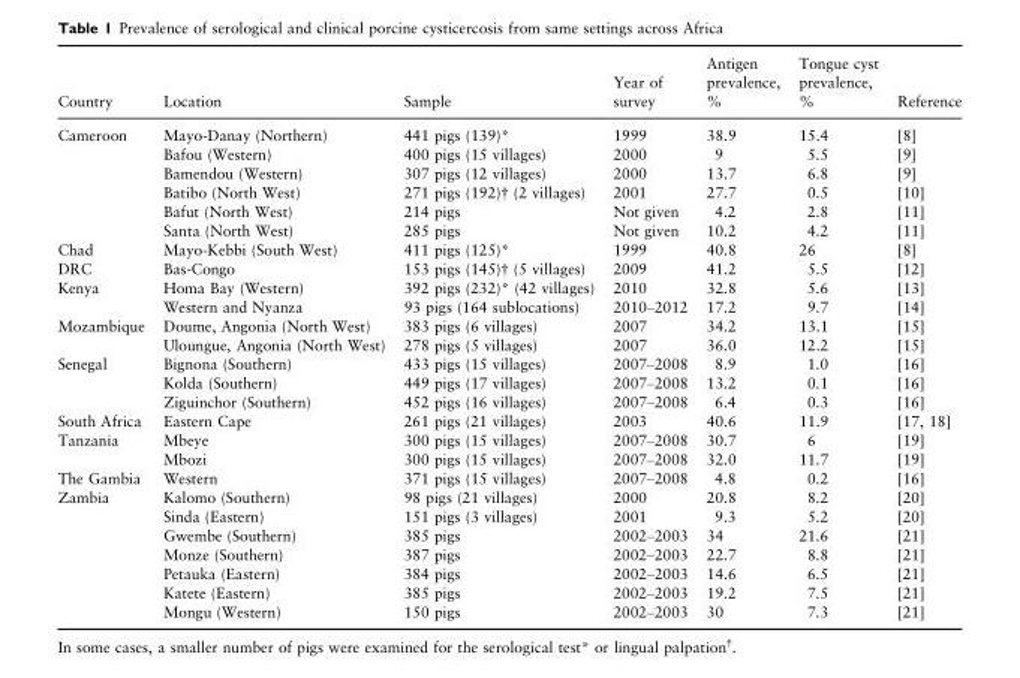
<table><thead><tr><td>Country</td><td>Location</td><td>Sample</td><td>Year of survey</td><td>Antigen prevalence, %</td><td>Tongue cyst prevalence, %</td><td>Reference</td></tr></thead><tbody><tr><td rowspan="6">Cameroon</td><td>Mayo-Danay (Northern)</td><td>441 pigs (139)*</td><td>1999</td><td>38.9</td><td>15.4</td><td>[8]</td></tr><tr><td>Bafou (Western)</td><td>400 pigs (15 villages)</td><td>2000</td><td>9</td><td>5.5</td><td>[9]</td></tr><tr><td>Bamendou (Western)</td><td>307 pigs (12 villages)</td><td>2000</td><td>13.7</td><td>6.8</td><td>[9]</td></tr><tr><td>Batibo (North West)</td><td>271 pigs (192)† (2 villages)</td><td>2001</td><td>27.7</td><td>0.5</td><td>[10]</td></tr><tr><td>Bafut (North West)</td><td>214 pigs</td><td>Not given</td><td>4.2</td><td>2.8</td><td>[11]</td></tr><tr><td>Santa (North West)</td><td>285 pigs</td><td>Not given</td><td>10.2</td><td>4.2</td><td>[11]</td></tr><tr><td>Chad</td><td>Mayo-Kebbi (South West)</td><td>411 pigs (125)*</td><td>1999</td><td>40.8</td><td>26</td><td>[8]</td></tr><tr><td>DRC</td><td>Bas-Congo</td><td>153 pigs (145)† (5 villages)</td><td>2009</td><td>41.2</td><td>5.5</td><td>[12]</td></tr><tr><td rowspan="2">Kenya</td><td>Homa Bay (Western)</td><td>392 pigs (232)* (42 villages)</td><td>2010</td><td>32.8</td><td>5.6</td><td>[13]</td></tr><tr><td>Western and Nyanza</td><td>93 pigs (164 sublocations)</td><td>2010–2012</td><td>17.2</td><td>9.7</td><td>[14]</td></tr><tr><td rowspan="2">Mozambique</td><td>Doume, Angonia (North West)</td><td>383 pigs (6 villages)</td><td>2007</td><td>34.2</td><td>13.1</td><td>[15]</td></tr><tr><td>Uloungue, Angonia (North West)</td><td>278 pigs (5 villages)</td><td>2007</td><td>36.0</td><td>12.2</td><td>[15]</td></tr><tr><td rowspan="3">Senegal</td><td>Bignona (Southern)</td><td>433 pigs (15 villages)</td><td>2007–2008</td><td>8.9</td><td>1.0</td><td>[16]</td></tr><tr><td>Kolda (Southern)</td><td>449 pigs (17 villages)</td><td>2007–2008</td><td>13.2</td><td>0.1</td><td>[16]</td></tr><tr><td>Ziguinchor (Southern)</td><td>452 pigs (16 villages)</td><td>2007–2008</td><td>6.4</td><td>0.3</td><td>[16]</td></tr><tr><td>South Africa</td><td>Eastern Cape</td><td>261 pigs (21 villages)</td><td>2003</td><td>40.6</td><td>11.9</td><td>[17, 18]</td></tr><tr><td rowspan="2">Tanzania</td><td>Mbeye</td><td>300 pigs (15 villages)</td><td>2007–2008</td><td>30.7</td><td>6</td><td>[19]</td></tr><tr><td>Mbozi</td><td>300 pigs (15 villages)</td><td>2007–2008</td><td>32.0</td><td>11.7</td><td>[19]</td></tr><tr><td>The Gambia</td><td>Western</td><td>371 pigs (15 villages)</td><td>2007–2008</td><td>4.8</td><td>0.2</td><td>[16]</td></tr><tr><td rowspan="7">Zambia</td><td>Kalomo (Southern)</td><td>98 pigs (21 villages)</td><td>2000</td><td>20.8</td><td>8.2</td><td>[20]</td></tr><tr><td>Sinda (Eastern)</td><td>151 pigs (3 villages)</td><td>2001</td><td>9.3</td><td>5.2</td><td>[20]</td></tr><tr><td>Gwembe (Southern)</td><td>385 pigs</td><td>2002–2003</td><td>34</td><td>21.6</td><td>[21]</td></tr><tr><td>Monze (Southern)</td><td>387 pigs</td><td>2002–2003</td><td>22.7</td><td>8.8</td><td>[21]</td></tr><tr><td>Petauka (Eastern)</td><td>384 pigs</td><td>2002–2003</td><td>14.6</td><td>6.5</td><td>[21]</td></tr><tr><td>Katete (Eastern)</td><td>385 pigs</td><td>2002–2003</td><td>19.2</td><td>7.5</td><td>[21]</td></tr><tr><td>Mongu (Western)</td><td>150 pigs</td><td>2002–2003</td><td>30</td><td>7.3</td><td>[21]</td></tr></tbody></table>